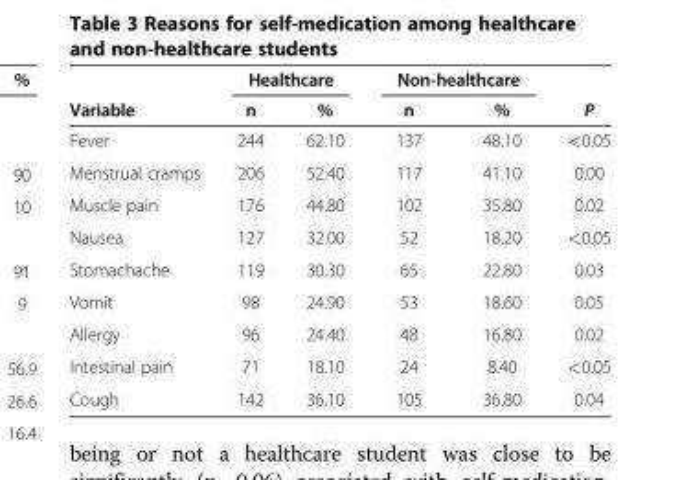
<table><thead><tr><td rowspan="2">Variable</td><td colspan="2">Healthcare</td><td colspan="2">Non-healthcare</td><td rowspan="2">P</td></tr><tr><td>n</td><td>%</td><td>n</td><td>%</td></tr></thead><tbody><tr><td>Fever</td><td>244</td><td>62.10</td><td>137</td><td>48.10</td><td>&lt;0.05</td></tr><tr><td>Menstrual cramps</td><td>206</td><td>52.40</td><td>117</td><td>41.10</td><td>0.00</td></tr><tr><td>Muscle pain</td><td>176</td><td>44.80</td><td>102</td><td>35.80</td><td>0.02</td></tr><tr><td>Nausea</td><td>127</td><td>32.00</td><td>52</td><td>18.20</td><td>&lt;0.05</td></tr><tr><td>Stomachache</td><td>119</td><td>30.30</td><td>65</td><td>22.80</td><td>0.03</td></tr><tr><td>Vomit</td><td>98</td><td>24.90</td><td>53</td><td>18.60</td><td>0.05</td></tr><tr><td>Allergy</td><td>96</td><td>24.40</td><td>48</td><td>16.80</td><td>0.02</td></tr><tr><td>Intestinal pain</td><td>71</td><td>18.10</td><td>24</td><td>8.40</td><td>&lt;0.05</td></tr><tr><td>Cough</td><td>142</td><td>36.10</td><td>105</td><td>36.80</td><td>0.04</td></tr></tbody></table>